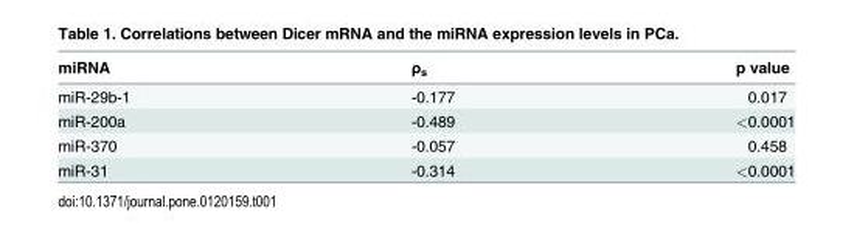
<table><thead><tr><td>miRNA</td><td>ρ<sub>s</sub></td><td>p value</td></tr></thead><tbody><tr><td>miR-29b-1</td><td>-0.177</td><td>0.017</td></tr><tr><td>miR-200a</td><td>-0.489</td><td>&lt;0.0001</td></tr><tr><td>miR-370</td><td>-0.057</td><td>0.458</td></tr><tr><td>miR-31</td><td>-0.314</td><td>&lt;0.0001</td></tr></tbody></table>